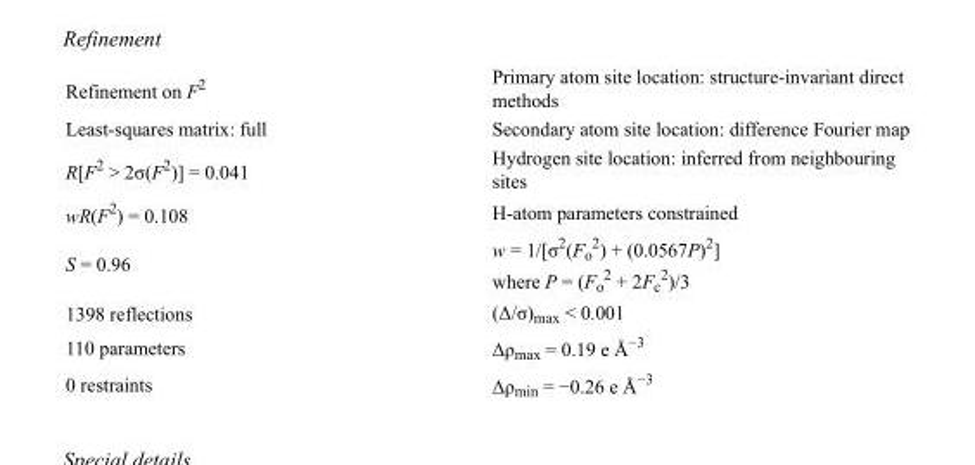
<table><tbody><tr><td>Refinement on F<sup>2</sup></td><td>Primary atom site location: structure-invariant direct methods</td></tr><tr><td>Least-squares matrix: full</td><td>Secondary atom site location: difference Fourier map</td></tr><tr><td>R[F<sup>2</sup> &gt; 2σ(F<sup>2</sup>)] = 0.041</td><td>Hydrogen site location: inferred from neighbouring sites</td></tr><tr><td>wR(F<sup>2</sup>) = 0.108</td><td>H-atom parameters constrained</td></tr><tr><td>S = 0.96</td><td>w = 1/[σ<sup>2</sup>(F<sub>o</sub> <sup>2</sup>) + (0.0567P)<sup>2</sup>] where P = (F<sub>o</sub> <sup>2</sup> + 2F<sub>c</sub> <sup>2</sup>)/3</td></tr><tr><td>1398 reflections</td><td>(Δ/σ)<sub>max</sub> &lt; 0.001</td></tr><tr><td>110 parameters</td><td>Δρ<sub>max</sub> = 0.19 e Å<sup>−3</sup></td></tr><tr><td>0 restraints</td><td>Δρ<sub>min</sub> = −0.26 e Å<sup>−3</sup></td></tr></tbody></table>